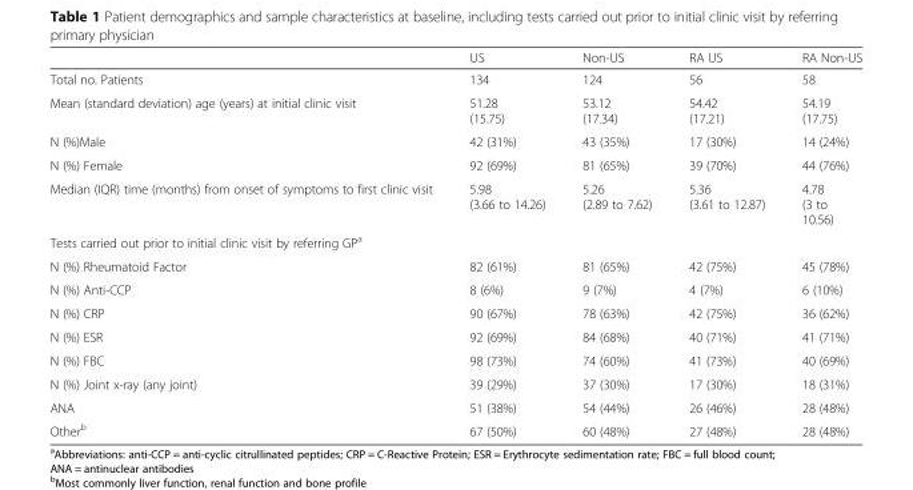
<table><thead><tr><td></td><td>US</td><td>Non-US</td><td>RA US</td><td>RA Non-US</td></tr></thead><tbody><tr><td>Total no. Patients</td><td>134</td><td>124</td><td>56</td><td>58</td></tr><tr><td>Mean (standard deviation) age (years) at initial clinic visit</td><td>51.28 (15.75)</td><td>53.12 (17.34)</td><td>54.42 (17.21)</td><td>54.19 (17.75)</td></tr><tr><td>N (%)Male</td><td>42 (31%)</td><td>43 (35%)</td><td>17 (30%)</td><td>14 (24%)</td></tr><tr><td>N (%) Female</td><td>92 (69%)</td><td>81 (65%)</td><td>39 (70%)</td><td>44 (76%)</td></tr><tr><td>Median (IQR) time (months) from onset of symptoms to first clinic visit</td><td>5.98 (3.66 to 14.26)</td><td>5.26 (2.89 to 7.62)</td><td>5.36 (3.61 to 12.87)</td><td>4.78 (3 to 10.56)</td></tr><tr><td colspan="5">Tests carried out prior to initial clinic visit by referring GP<sup>a</sup></td></tr><tr><td>N (%) Rheumatoid Factor</td><td>82 (61%)</td><td>81 (65%)</td><td>42 (75%)</td><td>45 (78%)</td></tr><tr><td>N (%) Anti-CCP</td><td>8 (6%)</td><td>9 (7%)</td><td>4 (7%)</td><td>6 (10%)</td></tr><tr><td>N (%) CRP</td><td>90 (67%)</td><td>78 (63%)</td><td>42 (75%)</td><td>36 (62%)</td></tr><tr><td>N (%) ESR</td><td>92 (69%)</td><td>84 (68%)</td><td>40 (71%)</td><td>41 (71%)</td></tr><tr><td>N (%) FBC</td><td>98 (73%)</td><td>74 (60%)</td><td>41 (73%)</td><td>40 (69%)</td></tr><tr><td>N (%) Joint x-ray (any joint)</td><td>39 (29%)</td><td>37 (30%)</td><td>17 (30%)</td><td>18 (31%)</td></tr><tr><td>ANA</td><td>51 (38%)</td><td>54 (44%)</td><td>26 (46%)</td><td>28 (48%)</td></tr><tr><td>Other<sup>b</sup></td><td>67 (50%)</td><td>60 (48%)</td><td>27 (48%)</td><td>28 (48%)</td></tr></tbody></table>